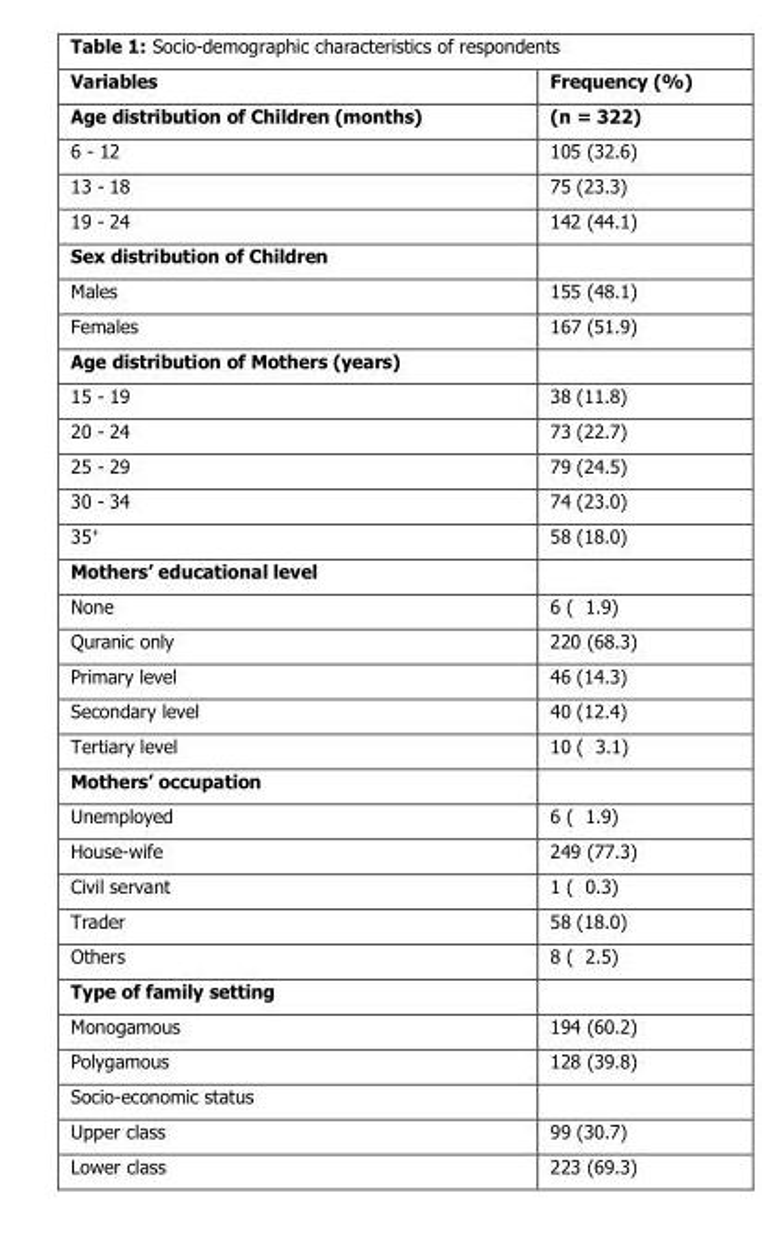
<table><thead><tr><td>Variables</td><td>Frequency (%)</td></tr></thead><tbody><tr><td>Age distribution of Children (months)</td><td>(n = 322)</td></tr><tr><td>6 - 12</td><td>105 (32.6)</td></tr><tr><td>13 - 18</td><td>75 (23.3)</td></tr><tr><td>19 - 24</td><td>142 (44.1)</td></tr><tr><td colspan="2">Sex distribution of Children</td></tr><tr><td>Males</td><td>155 (48.1)</td></tr><tr><td>Females</td><td>167 (51.9)</td></tr><tr><td colspan="2">Age distribution of Mothers (years)</td></tr><tr><td>15 - 19</td><td>38 (11.8)</td></tr><tr><td>20 - 24</td><td>73 (22.7)</td></tr><tr><td>25 - 29</td><td>79 (24.5)</td></tr><tr><td>30 - 34</td><td>74 (23.0)</td></tr><tr><td>35<sup>+</sup></td><td>58 (18.0)</td></tr><tr><td colspan="2">Mothers’ educational level</td></tr><tr><td>None</td><td>6 ( 1.9)</td></tr><tr><td>Quranic only</td><td>220 (68.3)</td></tr><tr><td>Primary level</td><td>46 (14.3)</td></tr><tr><td>Secondary level</td><td>40 (12.4)</td></tr><tr><td>Tertiary level</td><td>10 ( 3.1)</td></tr><tr><td colspan="2">Mothers’ occupation</td></tr><tr><td>Unemployed</td><td>6 ( 1.9)</td></tr><tr><td>House-wife</td><td>249 (77.3)</td></tr><tr><td>Civil servant</td><td>1 ( 0.3)</td></tr><tr><td>Trader</td><td>58 (18.0)</td></tr><tr><td>Others</td><td>8 ( 2.5)</td></tr><tr><td colspan="2">Type of family setting</td></tr><tr><td>Monogamous</td><td>194 (60.2)</td></tr><tr><td>Polygamous</td><td>128 (39.8)</td></tr><tr><td colspan="2">Socio-economic status</td></tr><tr><td>Upper class</td><td>99 (30.7)</td></tr><tr><td>Lower class</td><td>223 (69.3)</td></tr></tbody></table>